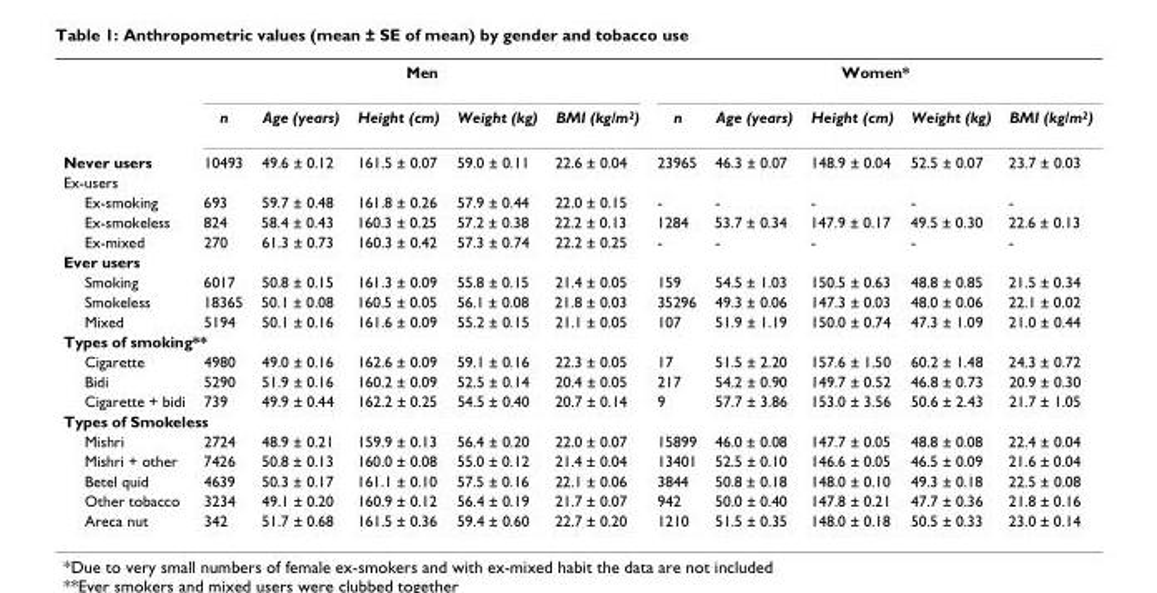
<table><thead><tr><td rowspan="2"></td><td colspan="5">Men</td><td colspan="5">Women*</td></tr><tr><td>n</td><td>Age (years)</td><td>Height (cm)</td><td>Weight (kg)</td><td>BMI (kg/m2)</td><td>n</td><td>Age (years)</td><td>Height (cm)</td><td>Weight (kg)</td><td>BMI (kg/m2)</td></tr></thead><tbody><tr><td>Never users</td><td>10493</td><td>49.6 ± 0.12</td><td>161.5 ± 0.07</td><td>59.0 ± 0.11</td><td>22.6 ± 0.04</td><td>23965</td><td>46.3 ± 0.07</td><td>148.9 ± 0.04</td><td>52.5 ± 0.07</td><td>23.7 ± 0.03</td></tr><tr><td colspan="11">Ex-users</td></tr><tr><td>Ex-smoking</td><td>693</td><td>59.7 ± 0.48</td><td>161.8 ± 0.26</td><td>57.9 ± 0.44</td><td>22.0 ± 0.15</td><td>-</td><td>-</td><td>-</td><td>-</td><td>-</td></tr><tr><td>Ex-smokeless</td><td>824</td><td>58.4 ± 0.43</td><td>160.3 ± 0.25</td><td>57.2 ± 0.38</td><td>22.2 ± 0.13</td><td>1284</td><td>53.7 ± 0.34</td><td>147.9 ± 0.17</td><td>49.5 ± 0.30</td><td>22.6 ± 0.13</td></tr><tr><td>Ex-mixed</td><td>270</td><td>61.3 ± 0.73</td><td>160.3 ± 0.42</td><td>57.3 ± 0.74</td><td>22.2 ± 0.25</td><td>-</td><td>-</td><td>-</td><td>-</td><td>-</td></tr><tr><td colspan="11">Ever users</td></tr><tr><td>Smoking</td><td>6017</td><td>50.8 ± 0.15</td><td>161.3 ± 0.09</td><td>55.8 ± 0.15</td><td>21.4 ± 0.05</td><td>159</td><td>54.5 ± 1.03</td><td>150.5 ± 0.63</td><td>48.8 ± 0.85</td><td>21.5 ± 0.34</td></tr><tr><td>Smokeless</td><td>18365</td><td>50.1 ± 0.08</td><td>160.5 ± 0.05</td><td>56.1 ± 0.08</td><td>21.8 ± 0.03</td><td>35296</td><td>49.3 ± 0.06</td><td>147.3 ± 0.03</td><td>48.0 ± 0.06</td><td>22.1 ± 0.02</td></tr><tr><td>Mixed</td><td>5194</td><td>50.1 ± 0.16</td><td>161.6 ± 0.09</td><td>55.2 ± 0.15</td><td>21.1 ± 0.05</td><td>107</td><td>51.9 ± 1.19</td><td>150.0 ± 0.74</td><td>47.3 ± 1.09</td><td>21.0 ± 0.44</td></tr><tr><td colspan="11">Types of smoking**</td></tr><tr><td>Cigarette</td><td>4980</td><td>49.0 ± 0.16</td><td>162.6 ± 0.09</td><td>59.1 ± 0.16</td><td>22.3 ± 0.05</td><td>17</td><td>51.5 ± 2.20</td><td>157.6 ± 1.50</td><td>60.2 ± 1.48</td><td>24.3 ± 0.72</td></tr><tr><td>Bidi</td><td>5290</td><td>51.9 ± 0.16</td><td>160.2 ± 0.09</td><td>52.5 ± 0.14</td><td>20.4 ± 0.05</td><td>217</td><td>54.2 ± 0.90</td><td>149.7 ± 0.52</td><td>46.8 ± 0.73</td><td>20.9 ± 0.30</td></tr><tr><td>Cigarette + bidi</td><td>739</td><td>49.9 ± 0.44</td><td>162.2 ± 0.25</td><td>54.5 ± 0.40</td><td>20.7 ± 0.14</td><td>9</td><td>57.7 ± 3.86</td><td>153.0 ± 3.56</td><td>50.6 ± 2.43</td><td>21.7 ± 1.05</td></tr><tr><td colspan="11">Types of Smokeless</td></tr><tr><td>Mishri</td><td>2724</td><td>48.9 ± 0.21</td><td>159.9 ± 0.13</td><td>56.4 ± 0.20</td><td>22.0 ± 0.07</td><td>15899</td><td>46.0 ± 0.08</td><td>147.7 ± 0.05</td><td>48.8 ± 0.08</td><td>22.4 ± 0.04</td></tr><tr><td>Mishri + other</td><td>7426</td><td>50.8 ± 0.13</td><td>160.0 ± 0.08</td><td>55.0 ± 0.12</td><td>21.4 ± 0.04</td><td>13401</td><td>52.5 ± 0.10</td><td>146.6 ± 0.05</td><td>46.5 ± 0.09</td><td>21.6 ± 0.04</td></tr><tr><td>Betel quid</td><td>4639</td><td>50.3 ± 0.17</td><td>161.1 ± 0.10</td><td>57.5 ± 0.16</td><td>22.1 ± 0.06</td><td>3844</td><td>50.8 ± 0.18</td><td>148.0 ± 0.10</td><td>49.3 ± 0.18</td><td>22.5 ± 0.08</td></tr><tr><td>Other tobacco</td><td>3234</td><td>49.1 ± 0.20</td><td>160.9 ± 0.12</td><td>56.4 ± 0.19</td><td>21.7 ± 0.07</td><td>942</td><td>50.0 ± 0.40</td><td>147.8 ± 0.21</td><td>47.7 ± 0.36</td><td>21.8 ± 0.16</td></tr><tr><td>Areca nut</td><td>342</td><td>51.7 ± 0.68</td><td>161.5 ± 0.36</td><td>59.4 ± 0.60</td><td>22.7 ± 0.20</td><td>1210</td><td>51.5 ± 0.35</td><td>148.0 ± 0.18</td><td>50.5 ± 0.33</td><td>23.0 ± 0.14</td></tr></tbody></table>